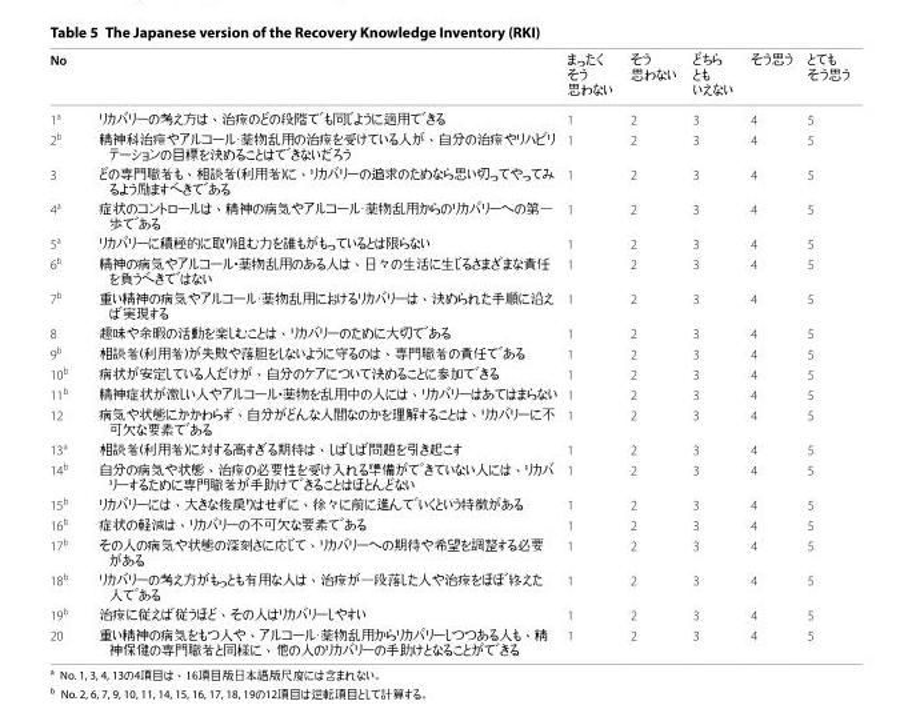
<table><thead><tr><td>No</td><td></td><td>まったく そう 思わない</td><td>そう 思わない</td><td>どちら とも いえない</td><td>そう思う</td><td>とても そう思う</td></tr></thead><tbody><tr><td>1<sup>a</sup></td><td>リカバリーの考え方は、治療のどの段階でも同じように適用できる</td><td>1</td><td>2</td><td>3</td><td>4</td><td>5</td></tr><tr><td>2<sup>b</sup></td><td>精神科治療やアルコール·薬物乱用の治療を受けている人が、自分の治療やリハビリ テーションの目標を決めることはできないだろう</td><td>1</td><td>2</td><td>3</td><td>4</td><td>5</td></tr><tr><td>3</td><td>どの専門職者も、相談者(利用者)に、リカバリーの追求のためなら思い切ってやってみ るよう励ますべきである</td><td>1</td><td>2</td><td>3</td><td>4</td><td>5</td></tr><tr><td>4<sup>a</sup></td><td>症状のコントロールは、精神の病気やアルコール·薬物乱用からのリカバリーへの第一 歩である</td><td>1</td><td>2</td><td>3</td><td>4</td><td>5</td></tr><tr><td>5<sup>a</sup></td><td>リカバリーに積極的に取り組む力を誰もがもっているとは限らない</td><td>1</td><td>2</td><td>3</td><td>4</td><td>5</td></tr><tr><td>6<sup>b</sup></td><td>精神の病気やアルコール・薬物乱用のある人は、日々の生活に生じるさまざまな責任 を負うべきではない</td><td>1</td><td>2</td><td>3</td><td>4</td><td>5</td></tr><tr><td>7<sup>b</sup></td><td>重い精神の病気やアルコール·薬物乱用におけるリカバリーは、決められた手順に沿え ば実現する</td><td>1</td><td>2</td><td>3</td><td>4</td><td>5</td></tr><tr><td>8</td><td>趣味や余暇の活動を楽しむことは、リカバリーのために大切である</td><td>1</td><td>2</td><td>3</td><td>4</td><td>5</td></tr><tr><td>9<sup>b</sup></td><td>相談者(利用者)が失敗や落胆をしないように守るのは、専門職者の責任である</td><td>1</td><td>2</td><td>3</td><td>4</td><td>5</td></tr><tr><td>10<sup>b</sup></td><td>病状が安定している人だけが、自分のケアについて決めることに参加できる</td><td>1</td><td>2</td><td>3</td><td>4</td><td>5</td></tr><tr><td>11<sup>b</sup></td><td>精神症状が激しい人やアルコール・薬物を乱用中の人には、リカバリーはあてはまらない</td><td>1</td><td>2</td><td>3</td><td>4</td><td>5</td></tr><tr><td>12</td><td>病気や状態にかかわらず、自分がどんな人間なのかを理解することは、リカバリーに不 可欠な要素である</td><td>1</td><td>2</td><td>3</td><td>4</td><td>5</td></tr><tr><td>13<sup>a</sup></td><td>相談者(利用者)に対する高すぎる期待は、しばしば問題を引き起こす</td><td>1</td><td>2</td><td>3</td><td>4</td><td>5</td></tr><tr><td>14<sup>b</sup></td><td>自分の病気や状態、治療の必要性を受け入れる準備ができていない人には、リカバ リーするために専門職者が手助けできることはほとんどない</td><td>1</td><td>2</td><td>3</td><td>4</td><td>5</td></tr><tr><td>15<sup>b</sup></td><td>リカバリーには、大きな後戻りはせずに、徐々に前に進んでいくという特徴がある</td><td>1</td><td>2</td><td>3</td><td>4</td><td>5</td></tr><tr><td>16<sup>b</sup></td><td>症状の軽減は、リカバリーの不可欠な要素である</td><td>1</td><td>2</td><td>3</td><td>4</td><td>5</td></tr><tr><td>17<sup>b</sup></td><td>その人の病気や状態の深刻さに応じて、リカバリーへの期待や希望を調整する必要 がある</td><td>1</td><td>2</td><td>3</td><td>4</td><td>5</td></tr><tr><td>18<sup>b</sup></td><td>リカバリーの考え方がもっとも有用な人は、治療が一段落した人や治療をほぼ終えた 人である</td><td>1</td><td>2</td><td>3</td><td>4</td><td>5</td></tr><tr><td>19<sup>b</sup></td><td>治療に従えば従うほど、その人はリカバリーしやすい</td><td>1</td><td>2</td><td>3</td><td>4</td><td>5</td></tr><tr><td>20</td><td>重い精神の病気をもつ人や、アルコール·薬物乱用からリカバリーしつつある人も、精 神保健の専門職者と同様に、他の人のリカバリーの手助けとなることができる</td><td>1</td><td>2</td><td>3</td><td>4</td><td>5</td></tr></tbody></table>